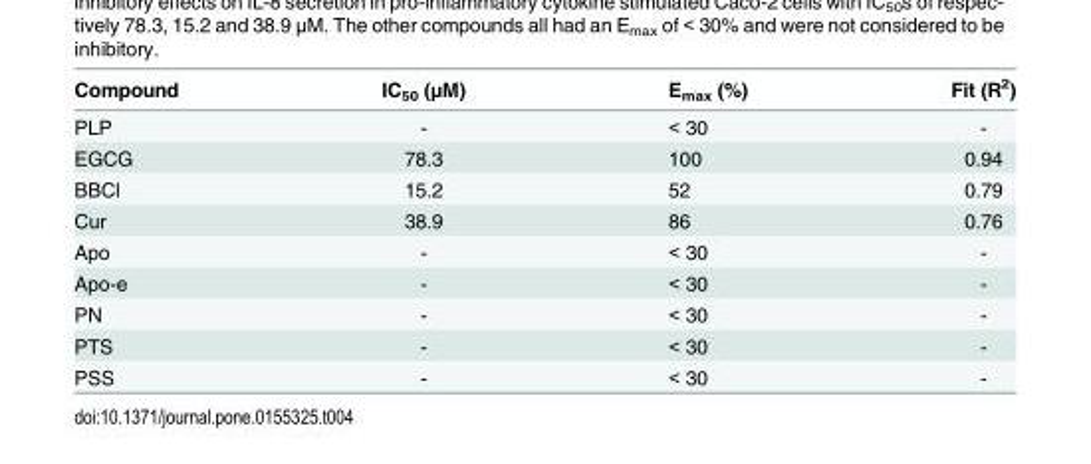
<table><thead><tr><td>Compound</td><td>IC<sub>50</sub> (μM)</td><td>E<sub>max</sub> (%)</td><td>Fit (R<sup>2</sup>)</td></tr></thead><tbody><tr><td>PLP</td><td>-</td><td>&lt; 30</td><td>-</td></tr><tr><td>EGCG</td><td>78.3</td><td>100</td><td>0.94</td></tr><tr><td>BBCl</td><td>15.2</td><td>52</td><td>0.79</td></tr><tr><td>Cur</td><td>38.9</td><td>86</td><td>0.76</td></tr><tr><td>Apo</td><td>-</td><td>&lt; 30</td><td>-</td></tr><tr><td>Apo-e</td><td>-</td><td>&lt; 30</td><td>-</td></tr><tr><td>PN</td><td>-</td><td>&lt; 30</td><td>-</td></tr><tr><td>PTS</td><td>-</td><td>&lt; 30</td><td>-</td></tr><tr><td>PSS</td><td>-</td><td>&lt; 30</td><td>-</td></tr></tbody></table>